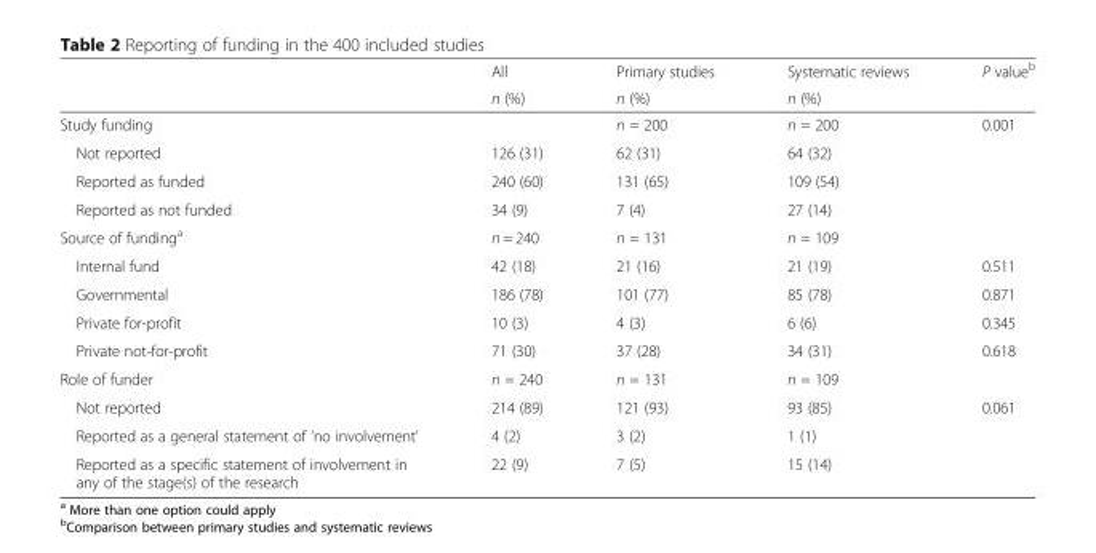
<table><thead><tr><td rowspan="2"></td><td rowspan="2">All n (%)</td><td rowspan="2">Primary studies n (%)</td><td rowspan="2">Systematic reviews n (%)</td><td rowspan="2">P value<sup>b</sup></td></tr><tr></tr></thead><tbody><tr><td>Study funding</td><td></td><td>n = 200</td><td>n = 200</td><td rowspan="4">0.001</td></tr><tr><td>Not reported</td><td>126 (31)</td><td>62 (31)</td><td>64 (32)</td></tr><tr><td>Reported as funded</td><td>240 (60)</td><td>131 (65)</td><td>109 (54)</td></tr><tr><td>Reported as not funded</td><td>34 (9)</td><td>7 (4)</td><td>27 (14)</td></tr><tr><td>Source of funding<sup>a</sup></td><td>n = 240</td><td>n = 131</td><td>n = 109</td><td></td></tr><tr><td>Internal fund</td><td>42 (18)</td><td>21 (16)</td><td>21 (19)</td><td>0.511</td></tr><tr><td>Governmental</td><td>186 (78)</td><td>101 (77)</td><td>85 (78)</td><td>0.871</td></tr><tr><td>Private for-profit</td><td>10 (3)</td><td>4 (3)</td><td>6 (6)</td><td>0.345</td></tr><tr><td>Private not-for-profit</td><td>71 (30)</td><td>37 (28)</td><td>34 (31)</td><td>0.618</td></tr><tr><td>Role of funder</td><td>n = 240</td><td>n = 131</td><td>n = 109</td><td></td></tr><tr><td>Not reported</td><td>214 (89)</td><td>121 (93)</td><td>93 (85)</td><td rowspan="3">0.061</td></tr><tr><td>Reported as a general statement of ‘no involvement’</td><td>4 (2)</td><td>3 (2)</td><td>1 (1)</td></tr><tr><td>Reported as a specific statement of involvement in any of the stage(s) of the research</td><td>22 (9)</td><td>7 (5)</td><td>15 (14)</td></tr></tbody></table>